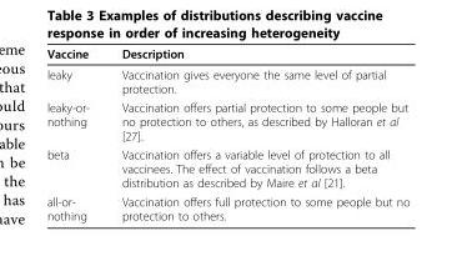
<table><thead><tr><td>Vaccine</td><td>Description</td></tr></thead><tbody><tr><td>leaky</td><td>Vaccination gives everyone the same level of partial protection.</td></tr><tr><td>leaky-or- nothing</td><td>Vaccination offers partial protection to some people but no protection to others, as described by Halloran et al [27].</td></tr><tr><td>beta</td><td>Vaccination offers a variable level of protection to all vaccinees. The effect of vaccination follows a beta distribution as described by Maire et al [21].</td></tr><tr><td>all-or- nothing</td><td>Vaccination offers full protection to some people but no protection to others.</td></tr></tbody></table>